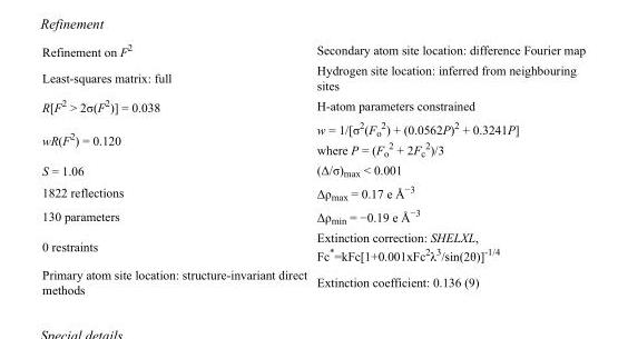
<table><tbody><tr><td>Refinement on F<sup>2</sup></td><td>Secondary atom site location: difference Fourier map</td></tr><tr><td>Least-squares matrix: full</td><td>Hydrogen site location: inferred from neighbouring sites</td></tr><tr><td>R[F<sup>2</sup> &gt; 2σ(F<sup>2</sup>)] = 0.038</td><td>H-atom parameters constrained</td></tr><tr><td>wR(F<sup>2</sup>) = 0.120</td><td>w = 1/[σ<sup>2</sup>(F<sub>o</sub> <sup>2</sup>) + (0.0562P)<sup>2</sup> + 0.3241P] where P = (F<sub>o</sub> <sup>2</sup> + 2F<sub>c</sub> <sup>2</sup>)/3</td></tr><tr><td>S = 1.06</td><td>(Δ/σ)<sub>max</sub> &lt; 0.001</td></tr><tr><td>1822 reflections</td><td>Δρ<sub>max</sub> = 0.17 e Å<sup>−3</sup></td></tr><tr><td>130 parameters</td><td>Δρmin = −0.19 e Å−3</td></tr><tr><td>0 restraints</td><td>Extinction correction: SHELXL, Fc*=kFc[1+0.001xFc<sup>2</sup>λ<sup>3</sup>/sin(2θ)]<sup>-1/4</sup></td></tr><tr><td>Primary atom site location: structure-invariant direct methods</td><td>Extinction coefficient: 0.136 (9)</td></tr></tbody></table>